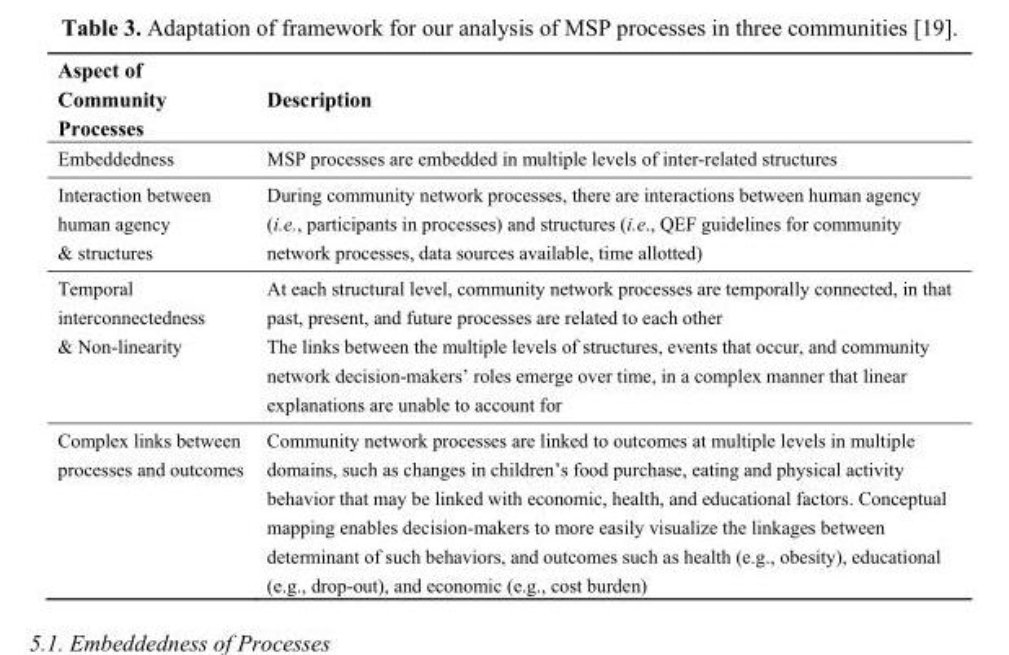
<table><thead><tr><td>Aspect of Community Processes</td><td>Description</td></tr></thead><tbody><tr><td>Embeddedness</td><td>MSP processes are embedded in multiple levels of inter-related structures</td></tr><tr><td>Interaction between human agency &amp; structures</td><td>During community network processes, there are interactions between human agency (i.e., participants in processes) and structures (i.e., QEF guidelines for community network processes, data sources available, time allotted)</td></tr><tr><td>Temporal interconnectedness &amp; Non-linearity</td><td>At each structural level, community network processes are temporally connected, in that past, present, and future processes are related to each other The links between the multiple levels of structures, events that occur, and community network decision-makers’ roles emerge over time, in a complex manner that linear explanations are unable to account for</td></tr><tr><td>Complex links between processes and outcomes</td><td>Community network processes are linked to outcomes at multiple levels in multiple domains, such as changes in children’s food purchase, eating and physical activity behavior that may be linked with economic, health, and educational factors. Conceptual mapping enables decision-makers to more easily visualize the linkages between determinant of such behaviors, and outcomes such as health (e.g., obesity), educational (e.g., drop-out), and economic (e.g., cost burden)</td></tr></tbody></table>